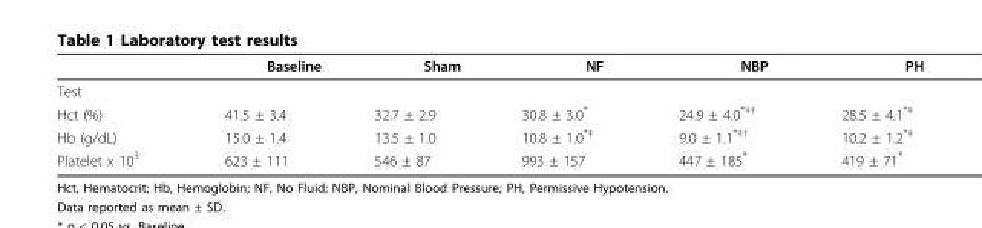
<table><thead><tr><td></td><td>Baseline</td><td>Sham</td><td>NF</td><td>NBP</td><td>PH</td></tr></thead><tbody><tr><td colspan="6">Test</td></tr><tr><td>Hct (%)</td><td>41.5 ± 3.4</td><td>32.7 ± 2.9</td><td>30.8 ± 3.0*</td><td>24.9 ± 4.0<sup>*‡†</sup></td><td>28.5 ± 4.1<sup>*‡</sup></td></tr><tr><td>Hb (g/dL)</td><td>15.0 ± 1.4</td><td>13.5 ± 1.0</td><td>10.8 ± 1.0<sup>*‡</sup></td><td>9.0 ± 1.1<sup>*‡†</sup></td><td>10.2 ± 1.2<sup>*‡</sup></td></tr><tr><td>Platelet x 10<sup>3</sup></td><td>623 ± 111</td><td>546 ± 87</td><td>993 ± 157</td><td>447 ± 185*</td><td>419 ± 71*</td></tr></tbody></table>